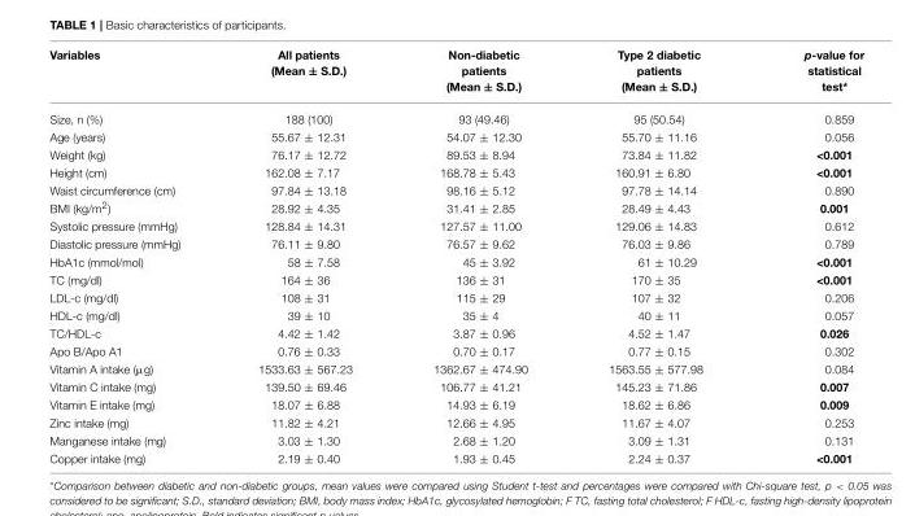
<table><thead><tr><td>Variables</td><td>All patients (Mean ± S.D.)</td><td>Non-diabetic patients (Mean ± S.D.)</td><td>Type 2 diabetic patients (Mean ± S.D.)</td><td>p-value for statistical test*</td></tr></thead><tbody><tr><td>Size, n (%)</td><td>188 (100)</td><td>93 (49.46)</td><td>95 (50.54)</td><td>0.859</td></tr><tr><td>Age (years)</td><td>55.67 ± 12.31</td><td>54.07 ± 12.30</td><td>55.70 ± 11.16</td><td>0.056</td></tr><tr><td>Weight (kg)</td><td>76.17 ± 12.72</td><td>89.53 ± 8.94</td><td>73.84 ± 11.82</td><td>&lt;0.001</td></tr><tr><td>Height (cm)</td><td>162.08 ± 7.17</td><td>168.78 ± 5.43</td><td>160.91 ± 6.80</td><td>&lt;0.001</td></tr><tr><td>Waist circumference (cm)</td><td>97.84 ± 13.18</td><td>98.16 ± 5.12</td><td>97.78 ± 14.14</td><td>0.890</td></tr><tr><td>BMI (kg/m<sup>2</sup>)</td><td>28.92 ± 4.35</td><td>31.41 ± 2.85</td><td>28.49 ± 4.43</td><td>0.001</td></tr><tr><td>Systolic pressure (mmHg)</td><td>128.84 ± 14.31</td><td>127.57 ± 11.00</td><td>129.06 ± 14.83</td><td>0.612</td></tr><tr><td>Diastolic pressure (mmHg)</td><td>76.11 ± 9.80</td><td>76.57 ± 9.62</td><td>76.03 ± 9.86</td><td>0.789</td></tr><tr><td>HbA1c (mmol/mol)</td><td>58 ± 7.58</td><td>45 ± 3.92</td><td>61 ± 10.29</td><td>&lt;0.001</td></tr><tr><td>TC (mg/dl)</td><td>164 ± 36</td><td>136 ± 31</td><td>170 ± 35</td><td>&lt;0.001</td></tr><tr><td>LDL-c (mg/dl)</td><td>108 ± 31</td><td>115 ± 29</td><td>107 ± 32</td><td>0.206</td></tr><tr><td>HDL-c (mg/dl)</td><td>39 ± 10</td><td>35 ± 4</td><td>40 ± 11</td><td>0.057</td></tr><tr><td>TC/HDL-c</td><td>4.42 ± 1.42</td><td>3.87 ± 0.96</td><td>4.52 ± 1.47</td><td>0.026</td></tr><tr><td>Apo B/Apo A1</td><td>0.76 ± 0.33</td><td>0.70 ± 0.17</td><td>0.77 ± 0.15</td><td>0.302</td></tr><tr><td>Vitamin A intake (µg)</td><td>1533.63 ± 567.23</td><td>1362.67 ± 474.90</td><td>1563.55 ± 577.98</td><td>0.084</td></tr><tr><td>Vitamin C intake (mg)</td><td>139.50 ± 69.46</td><td>106.77 ± 41.21</td><td>145.23 ± 71.86</td><td>0.007</td></tr><tr><td>Vitamin E intake (mg)</td><td>18.07 ± 6.88</td><td>14.93 ± 6.19</td><td>18.62 ± 6.86</td><td>0.009</td></tr><tr><td>Zinc intake (mg)</td><td>11.82 ± 4.21</td><td>12.66 ± 4.95</td><td>11.67 ± 4.07</td><td>0.253</td></tr><tr><td>Manganese intake (mg)</td><td>3.03 ± 1.30</td><td>2.68 ± 1.20</td><td>3.09 ± 1.31</td><td>0.131</td></tr><tr><td>Copper intake (mg)</td><td>2.19 ± 0.40</td><td>1.93 ± 0.45</td><td>2.24 ± 0.37</td><td>&lt;0.001</td></tr></tbody></table>